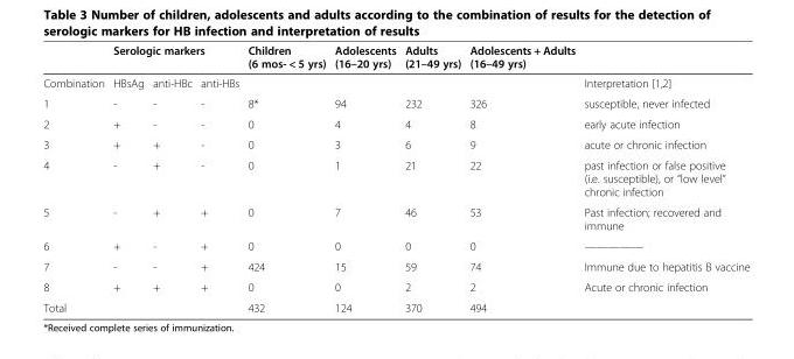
<table><thead><tr><td rowspan="2">Combination</td><td colspan="3">Serologic markers</td><td rowspan="2">Children (6 mos- &lt; 5 yrs)</td><td rowspan="2">Adolescents (16–20 yrs)</td><td rowspan="2">Adults (21–49 yrs)</td><td rowspan="2">Adolescents + Adults (16–49 yrs)</td><td rowspan="2">Interpretation [1,2]</td></tr><tr><td>HBsAg</td><td>anti-HBc</td><td>anti-HBs</td></tr></thead><tbody><tr><td>1</td><td>-</td><td>-</td><td>-</td><td>8*</td><td>94</td><td>232</td><td>326</td><td>susceptible, never infected</td></tr><tr><td>2</td><td>+</td><td>-</td><td>-</td><td>0</td><td>4</td><td>4</td><td>8</td><td>early acute infection</td></tr><tr><td>3</td><td>+</td><td>+</td><td>-</td><td>0</td><td>3</td><td>6</td><td>9</td><td>acute or chronic infection</td></tr><tr><td>4</td><td>-</td><td>+</td><td>-</td><td>0</td><td>1</td><td>21</td><td>22</td><td>past infection or false positive (i.e. susceptible), or “low level” chronic infection</td></tr><tr><td>5</td><td>-</td><td>+</td><td>+</td><td>0</td><td>7</td><td>46</td><td>53</td><td>Past infection; recovered and immune</td></tr><tr><td>6</td><td>+</td><td>-</td><td>+</td><td>0</td><td>0</td><td>0</td><td>0</td><td>—————</td></tr><tr><td>7</td><td>-</td><td>-</td><td>+</td><td>424</td><td>15</td><td>59</td><td>74</td><td>Immune due to hepatitis B vaccine</td></tr><tr><td>8</td><td>+</td><td>+</td><td>+</td><td>0</td><td>0</td><td>2</td><td>2</td><td>Acute or chronic infection</td></tr><tr><td>Total</td><td></td><td></td><td></td><td>432</td><td>124</td><td>370</td><td>494</td><td></td></tr></tbody></table>